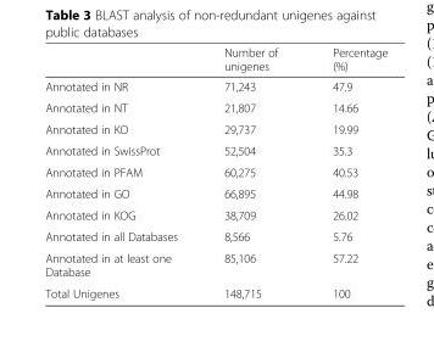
<table><thead><tr><td></td><td>Number of unigenes</td><td>Percentage (%)</td></tr></thead><tbody><tr><td>Annotated in NR</td><td>71,243</td><td>47.9</td></tr><tr><td>Annotated in NT</td><td>21,807</td><td>14.66</td></tr><tr><td>Annotated in KO</td><td>29,737</td><td>19.99</td></tr><tr><td>Annotated in SwissProt</td><td>52,504</td><td>35.3</td></tr><tr><td>Annotated in PFAM</td><td>60,275</td><td>40.53</td></tr><tr><td>Annotated in GO</td><td>66,895</td><td>44.98</td></tr><tr><td>Annotated in KOG</td><td>38,709</td><td>26.02</td></tr><tr><td>Annotated in all Databases</td><td>8,566</td><td>5.76</td></tr><tr><td>Annotated in at least one Database</td><td>85,106</td><td>57.22</td></tr><tr><td>Total Unigenes</td><td>148,715</td><td>100</td></tr></tbody></table>